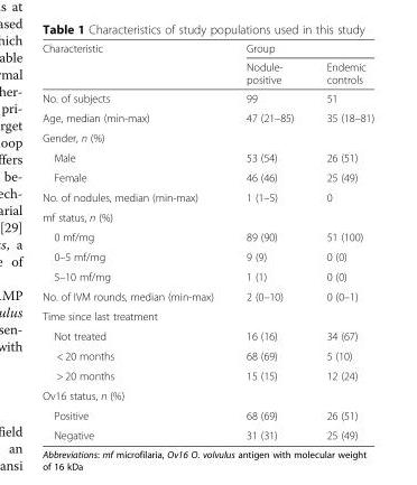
<table><thead><tr><td rowspan="2">Characteristic</td><td colspan="2">Group</td></tr><tr><td>Nodule- positive</td><td>Endemic controls</td></tr></thead><tbody><tr><td>No. of subjects</td><td>99</td><td>51</td></tr><tr><td>Age, median (min-max)</td><td>47 (21–85)</td><td>35 (18–81)</td></tr><tr><td colspan="3">Gender, n (%)</td></tr><tr><td>Male</td><td>53 (54)</td><td>26 (51)</td></tr><tr><td>Female</td><td>46 (46)</td><td>25 (49)</td></tr><tr><td>No. of nodules, median (min-max)</td><td>1 (1–5)</td><td>0</td></tr><tr><td colspan="3">mf status, n (%)</td></tr><tr><td>0 mf/mg</td><td>89 (90)</td><td>51 (100)</td></tr><tr><td>0–5 mf/mg</td><td>9 (9)</td><td>0 (0)</td></tr><tr><td>5–10 mf/mg</td><td>1 (1)</td><td>0 (0)</td></tr><tr><td>No. of IVM rounds, median (min-max)</td><td>2 (0–10)</td><td>0 (0–1)</td></tr><tr><td colspan="3">Time since last treatment</td></tr><tr><td>Not treated</td><td>16 (16)</td><td>34 (67)</td></tr><tr><td>&lt; 20 months</td><td>68 (69)</td><td>5 (10)</td></tr><tr><td>&gt; 20 months</td><td>15 (15)</td><td>12 (24)</td></tr><tr><td colspan="3">Ov16 status, n (%)</td></tr><tr><td>Positive</td><td>68 (69)</td><td>26 (51)</td></tr><tr><td>Negative</td><td>31 (31)</td><td>25 (49)</td></tr></tbody></table>